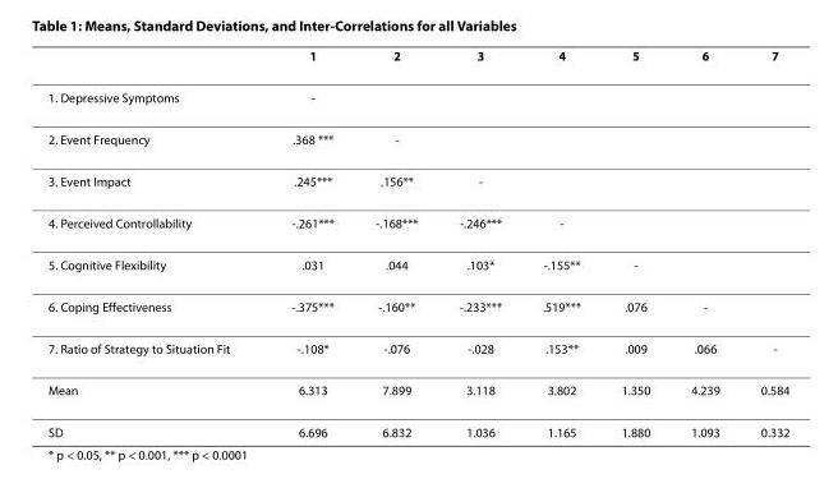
<table><thead><tr><td></td><td>1</td><td>2</td><td>3</td><td>4</td><td>5</td><td>6</td><td>7</td></tr></thead><tbody><tr><td>1. Depressive Symptoms</td><td>-</td><td></td><td></td><td></td><td></td><td></td><td></td></tr><tr><td>2. Event Frequency</td><td>.368 ***</td><td>-</td><td></td><td></td><td></td><td></td><td></td></tr><tr><td>3. Event Impact</td><td>.245***</td><td>.156**</td><td>-</td><td></td><td></td><td></td><td></td></tr><tr><td>4. Perceived Controllability</td><td>-.261***</td><td>-.168***</td><td>-.246***</td><td>-</td><td></td><td></td><td></td></tr><tr><td>5. Cognitive Flexibility</td><td>.031</td><td>.044</td><td>.103*</td><td>-.155**</td><td>-</td><td></td><td></td></tr><tr><td>6. Coping Effectiveness</td><td>-.375***</td><td>-.160**</td><td>-.233***</td><td>.519***</td><td>.076</td><td>-</td><td></td></tr><tr><td>7. Ratio of Strategy to Situation Fit</td><td>-.108*</td><td>-.076</td><td>-.028</td><td>.153**</td><td>.009</td><td>.066</td><td>-</td></tr><tr><td>Mean</td><td>6.313</td><td>7.899</td><td>3.118</td><td>3.802</td><td>1.350</td><td>4.239</td><td>0.584</td></tr><tr><td>SD</td><td>6.696</td><td>6.832</td><td>1.036</td><td>1.165</td><td>1.880</td><td>1.093</td><td>0.332</td></tr></tbody></table>